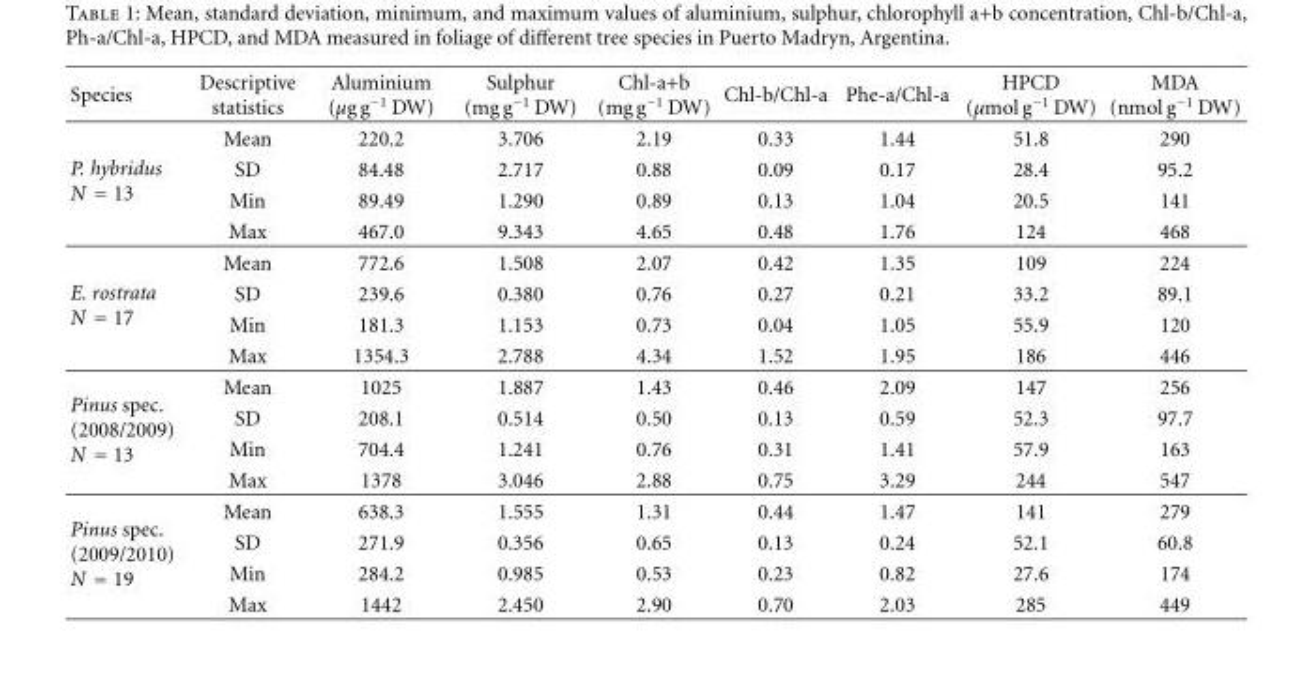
<table><thead><tr><td>Species</td><td>Descriptive statistics</td><td>Aluminium (µg g<sup>−1</sup> DW)</td><td>Sulphur (mg g<sup>−1</sup> DW)</td><td>Chl-a+b (mg g<sup>−1</sup> DW)</td><td>Chl-b/Chl-a</td><td>Phe-a/Chl-a</td><td>HPCD (µmol g<sup>−1</sup> DW)</td><td>MDA (nmol g<sup>−1</sup> DW)</td></tr></thead><tbody><tr><td rowspan="4">P. hybridus N = 13</td><td>Mean</td><td>220.2</td><td>3.706</td><td>2.19</td><td>0.33</td><td>1.44</td><td>51.8</td><td>290</td></tr><tr><td>SD</td><td>84.48</td><td>2.717</td><td>0.88</td><td>0.09</td><td>0.17</td><td>28.4</td><td>95.2</td></tr><tr><td>Min</td><td>89.49</td><td>1.290</td><td>0.89</td><td>0.13</td><td>1.04</td><td>20.5</td><td>141</td></tr><tr><td>Max</td><td>467.0</td><td>9.343</td><td>4.65</td><td>0.48</td><td>1.76</td><td>124</td><td>468</td></tr><tr><td rowspan="4">E. rostrata N = 17</td><td>Mean</td><td>772.6</td><td>1.508</td><td>2.07</td><td>0.42</td><td>1.35</td><td>109</td><td>224</td></tr><tr><td>SD</td><td>239.6</td><td>0.380</td><td>0.76</td><td>0.27</td><td>0.21</td><td>33.2</td><td>89.1</td></tr><tr><td>Min</td><td>181.3</td><td>1.153</td><td>0.73</td><td>0.04</td><td>1.05</td><td>55.9</td><td>120</td></tr><tr><td>Max</td><td>1354.3</td><td>2.788</td><td>4.34</td><td>1.52</td><td>1.95</td><td>186</td><td>446</td></tr><tr><td rowspan="4">Pinus spec. (2008/2009) N = 13</td><td>Mean</td><td>1025</td><td>1.887</td><td>1.43</td><td>0.46</td><td>2.09</td><td>147</td><td>256</td></tr><tr><td>SD</td><td>208.1</td><td>0.514</td><td>0.50</td><td>0.13</td><td>0.59</td><td>52.3</td><td>97.7</td></tr><tr><td>Min</td><td>704.4</td><td>1.241</td><td>0.76</td><td>0.31</td><td>1.41</td><td>57.9</td><td>163</td></tr><tr><td>Max</td><td>1378</td><td>3.046</td><td>2.88</td><td>0.75</td><td>3.29</td><td>244</td><td>547</td></tr><tr><td rowspan="4">Pinus spec. (2009/2010) N = 19</td><td>Mean</td><td>638.3</td><td>1.555</td><td>1.31</td><td>0.44</td><td>1.47</td><td>141</td><td>279</td></tr><tr><td>SD</td><td>271.9</td><td>0.356</td><td>0.65</td><td>0.13</td><td>0.24</td><td>52.1</td><td>60.8</td></tr><tr><td>Min</td><td>284.2</td><td>0.985</td><td>0.53</td><td>0.23</td><td>0.82</td><td>27.6</td><td>174</td></tr><tr><td>Max</td><td>1442</td><td>2.450</td><td>2.90</td><td>0.70</td><td>2.03</td><td>285</td><td>449</td></tr></tbody></table>